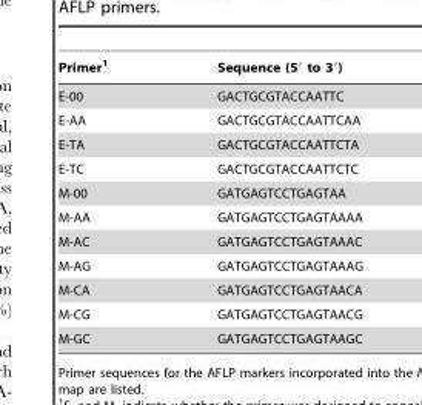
<table><thead><tr><td>Primer<sup>1</sup></td><td>Sequence (5′ to 3′)</td></tr></thead><tbody><tr><td>E-00</td><td>GACTGCGTACCAATTC</td></tr><tr><td>E-AA</td><td>GACTGCGTACCAATTCAA</td></tr><tr><td>E-TA</td><td>GACTGCGTACCAATTCTA</td></tr><tr><td>E-TC</td><td>GACTGCGTACCAATTCTC</td></tr><tr><td>M-00</td><td>GATGAGTCCTGAGTAA</td></tr><tr><td>M-AA</td><td>GATGAGTCCTGAGTAAAA</td></tr><tr><td>M-AC</td><td>GATGAGTCCTGAGTAAAC</td></tr><tr><td>M-AG</td><td>GATGAGTCCTGAGTAAAG</td></tr><tr><td>M-CA</td><td>GATGAGTCCTGAGTAACA</td></tr><tr><td>M-CG</td><td>GATGAGTCCTGAGTAACG</td></tr><tr><td>M-GC</td><td>GATGAGTCCTGAGTAAGC</td></tr></tbody></table>